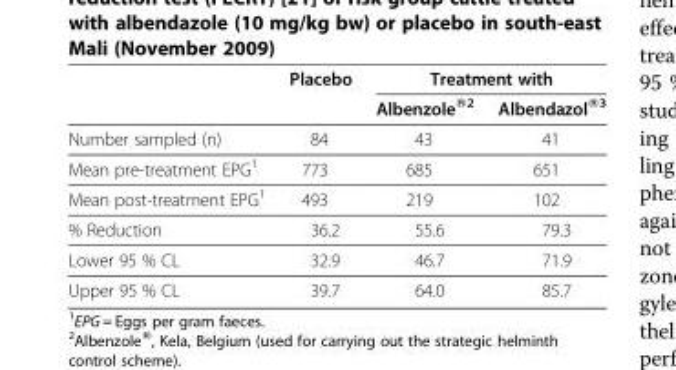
<table><thead><tr><td rowspan="2"></td><td rowspan="2">Placebo</td><td colspan="2">Treatment with</td></tr><tr><td>Albenzole®<sup>2</sup></td><td>Albendazol®<sup>3</sup></td></tr></thead><tbody><tr><td>Number sampled (n)</td><td>84</td><td>43</td><td>41</td></tr><tr><td>Mean pre-treatment EPG<sup>1</sup></td><td>773</td><td>685</td><td>651</td></tr><tr><td>Mean post-treatment EPG<sup>1</sup></td><td>493</td><td>219</td><td>102</td></tr><tr><td>% Reduction</td><td>36.2</td><td>55.6</td><td>79.3</td></tr><tr><td>Lower 95 % CL</td><td>32.9</td><td>46.7</td><td>71.9</td></tr><tr><td>Upper 95 % CL</td><td>39.7</td><td>64.0</td><td>85.7</td></tr></tbody></table>